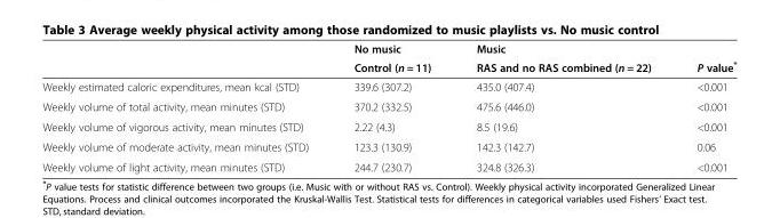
<table><thead><tr><td rowspan="2"></td><td rowspan="2">No music Control (n = 11)</td><td rowspan="2">Music RAS and no RAS combined (n = 22)</td><td rowspan="2">P value*</td></tr><tr></tr></thead><tbody><tr><td>Weekly estimated caloric expenditures, mean kcal (STD)</td><td>339.6 (307.2)</td><td>435.0 (407.4)</td><td>&lt;0.001</td></tr><tr><td>Weekly volume of total activity, mean minutes (STD)</td><td>370.2 (332.5)</td><td>475.6 (446.0)</td><td>&lt;0.001</td></tr><tr><td>Weekly volume of vigorous activity, mean minutes (STD)</td><td>2.22 (4.3)</td><td>8.5 (19.6)</td><td>&lt;0.001</td></tr><tr><td>Weekly volume of moderate activity, mean minutes (STD)</td><td>123.3 (130.9)</td><td>142.3 (142.7)</td><td>0.06</td></tr><tr><td>Weekly volume of light activity, mean minutes (STD)</td><td>244.7 (230.7)</td><td>324.8 (326.3)</td><td>&lt;0.001</td></tr></tbody></table>